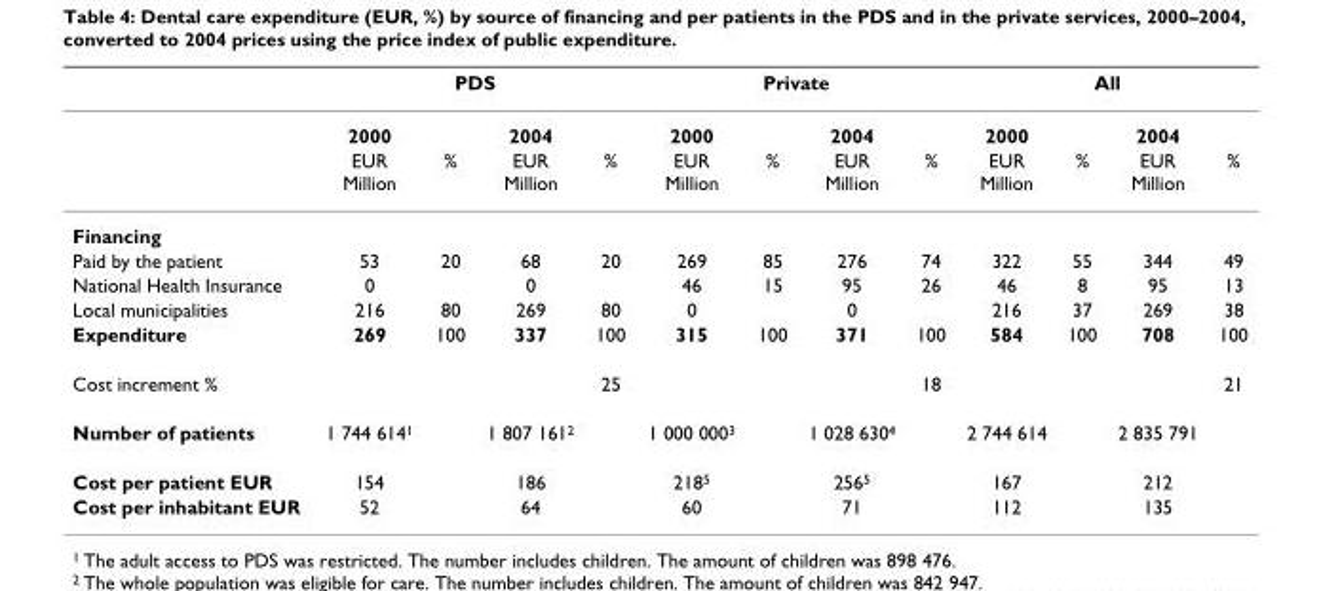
<table><thead><tr><td rowspan="2"></td><td colspan="4">PDS</td><td colspan="4">Private</td><td colspan="4">All</td></tr><tr><td>2000</td><td></td><td>2004</td><td></td><td>2000</td><td></td><td>2004</td><td></td><td>2000</td><td></td><td>2004</td><td></td></tr></thead><tbody><tr><td></td><td>EUR Million</td><td>%</td><td>EUR Million</td><td>%</td><td>EUR Million</td><td>%</td><td>EUR Million</td><td>%</td><td>EUR Million</td><td>%</td><td>EUR Million</td><td>%</td></tr><tr><td colspan="13">Financing</td></tr><tr><td>Paid by the patient</td><td>53</td><td>20</td><td>68</td><td>20</td><td>269</td><td>85</td><td>276</td><td>74</td><td>322</td><td>55</td><td>344</td><td>49</td></tr><tr><td>National Health Insurance</td><td>0</td><td></td><td>0</td><td></td><td>46</td><td>15</td><td>95</td><td>26</td><td>46</td><td>8</td><td>95</td><td>13</td></tr><tr><td>Local municipalities</td><td>216</td><td>80</td><td>269</td><td>80</td><td>0</td><td></td><td>0</td><td></td><td>216</td><td>37</td><td>269</td><td>38</td></tr><tr><td>Expenditure</td><td>269</td><td>100</td><td>337</td><td>100</td><td>315</td><td>100</td><td>371</td><td>100</td><td>584</td><td>100</td><td>708</td><td>100</td></tr><tr><td>Cost increment %</td><td></td><td></td><td></td><td>25</td><td></td><td></td><td></td><td>18</td><td></td><td></td><td></td><td>21</td></tr><tr><td>Number of patients</td><td>1 744 614<sup>1</sup></td><td></td><td>1 807 161<sup>2</sup></td><td></td><td>1 000 000<sup>3</sup></td><td></td><td>1 028 630<sup>4</sup></td><td></td><td>2 744 614</td><td></td><td>2 835 791</td><td></td></tr><tr><td>Cost per patient EUR</td><td>154</td><td></td><td>186</td><td></td><td>218<sup>5</sup></td><td></td><td>256<sup>5</sup></td><td></td><td>167</td><td></td><td>212</td><td></td></tr><tr><td>Cost per inhabitant EUR</td><td>52</td><td></td><td>64</td><td></td><td>60</td><td></td><td>71</td><td></td><td>112</td><td></td><td>135</td><td></td></tr></tbody></table>